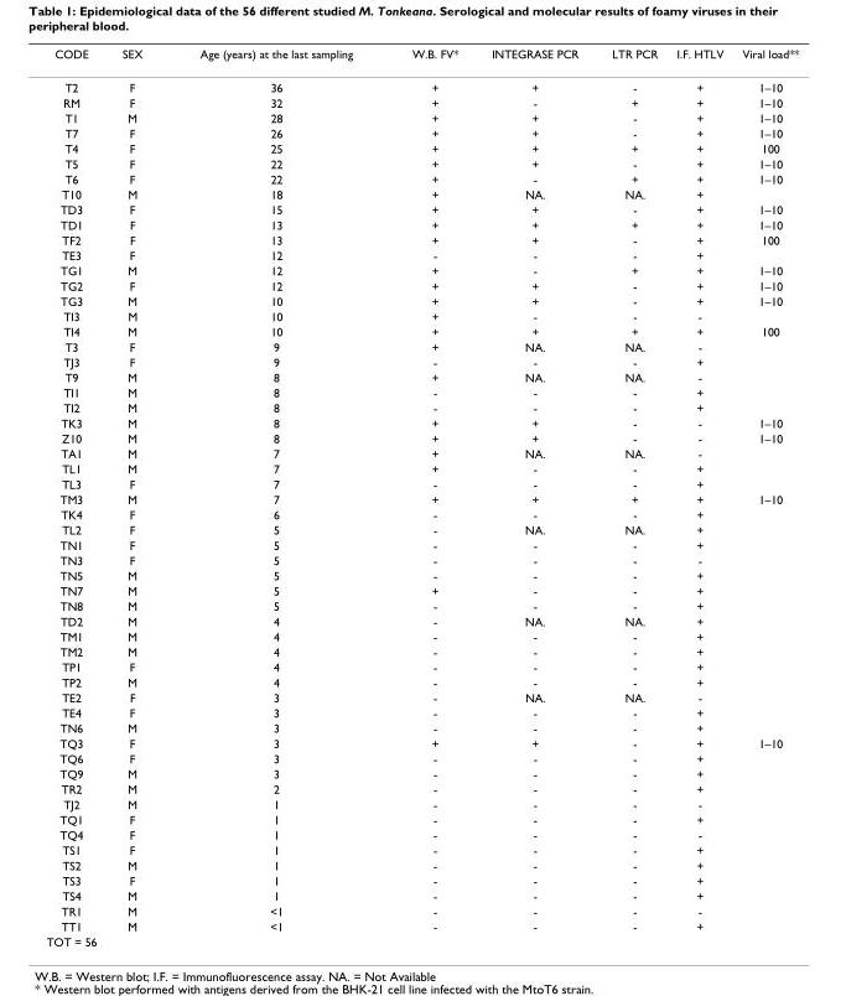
<table><thead><tr><td>CODE</td><td>SEX</td><td>Age (years) at the last sampling</td><td>W.B. FV*</td><td>INTEGRASE PCR</td><td>LTR PCR</td><td>I.F. HTLV</td><td>Viral load**</td></tr></thead><tbody><tr><td>T2</td><td>F</td><td>36</td><td>+</td><td>+</td><td>-</td><td>+</td><td>1–10</td></tr><tr><td>RM</td><td>F</td><td>32</td><td>+</td><td>-</td><td>+</td><td>+</td><td>1–10</td></tr><tr><td>T1</td><td>M</td><td>28</td><td>+</td><td>+</td><td>-</td><td>+</td><td>1–10</td></tr><tr><td>T7</td><td>F</td><td>26</td><td>+</td><td>+</td><td>-</td><td>+</td><td>1–10</td></tr><tr><td>T4</td><td>F</td><td>25</td><td>+</td><td>+</td><td>+</td><td>+</td><td>100</td></tr><tr><td>T5</td><td>F</td><td>22</td><td>+</td><td>+</td><td>-</td><td>+</td><td>1–10</td></tr><tr><td>T6</td><td>F</td><td>22</td><td>+</td><td>-</td><td>+</td><td>+</td><td>1–10</td></tr><tr><td>T10</td><td>M</td><td>18</td><td>+</td><td>NA.</td><td>NA.</td><td>+</td><td></td></tr><tr><td>TD3</td><td>F</td><td>15</td><td>+</td><td>+</td><td>-</td><td>+</td><td>1–10</td></tr><tr><td>TD1</td><td>F</td><td>13</td><td>+</td><td>+</td><td>+</td><td>+</td><td>1–10</td></tr><tr><td>TF2</td><td>F</td><td>13</td><td>+</td><td>+</td><td>-</td><td>+</td><td>100</td></tr><tr><td>TE3</td><td>F</td><td>12</td><td>-</td><td>-</td><td>-</td><td>+</td><td></td></tr><tr><td>TG1</td><td>M</td><td>12</td><td>+</td><td>-</td><td>+</td><td>+</td><td>1–10</td></tr><tr><td>TG2</td><td>F</td><td>12</td><td>+</td><td>+</td><td>-</td><td>+</td><td>1–10</td></tr><tr><td>TG3</td><td>M</td><td>10</td><td>+</td><td>+</td><td>-</td><td>+</td><td>1–10</td></tr><tr><td>TI3</td><td>M</td><td>10</td><td>+</td><td>-</td><td>-</td><td>-</td><td></td></tr><tr><td>TI4</td><td>M</td><td>10</td><td>+</td><td>+</td><td>+</td><td>+</td><td>100</td></tr><tr><td>T3</td><td>F</td><td>9</td><td>+</td><td>NA.</td><td>NA.</td><td>-</td><td></td></tr><tr><td>TJ3</td><td>F</td><td>9</td><td>-</td><td>-</td><td>-</td><td>+</td><td></td></tr><tr><td>T9</td><td>M</td><td>8</td><td>+</td><td>NA.</td><td>NA.</td><td>-</td><td></td></tr><tr><td>TI1</td><td>M</td><td>8</td><td>-</td><td>-</td><td>-</td><td>+</td><td></td></tr><tr><td>TI2</td><td>M</td><td>8</td><td>-</td><td>-</td><td>-</td><td>+</td><td></td></tr><tr><td>TK3</td><td>M</td><td>8</td><td>+</td><td>+</td><td>-</td><td>-</td><td>1–10</td></tr><tr><td>Z10</td><td>M</td><td>8</td><td>+</td><td>+</td><td>-</td><td>-</td><td>1–10</td></tr><tr><td>TA1</td><td>M</td><td>7</td><td>+</td><td>NA.</td><td>NA.</td><td>-</td><td></td></tr><tr><td>TL1</td><td>M</td><td>7</td><td>+</td><td>-</td><td>-</td><td>+</td><td></td></tr><tr><td>TL3</td><td>F</td><td>7</td><td>-</td><td>-</td><td>-</td><td>+</td><td></td></tr><tr><td>TM3</td><td>M</td><td>7</td><td>+</td><td>+</td><td>+</td><td>+</td><td>1–10</td></tr><tr><td>TK4</td><td>F</td><td>6</td><td>-</td><td>-</td><td>-</td><td>+</td><td></td></tr><tr><td>TL2</td><td>F</td><td>5</td><td>-</td><td>NA.</td><td>NA.</td><td>+</td><td></td></tr><tr><td>TN1</td><td>F</td><td>5</td><td>-</td><td>-</td><td>-</td><td>+</td><td></td></tr><tr><td>TN3</td><td>F</td><td>5</td><td>-</td><td>-</td><td>-</td><td>-</td><td></td></tr><tr><td>TN5</td><td>M</td><td>5</td><td>-</td><td>-</td><td>-</td><td>+</td><td></td></tr><tr><td>TN7</td><td>M</td><td>5</td><td>+</td><td>-</td><td>-</td><td>+</td><td></td></tr><tr><td>TN8</td><td>M</td><td>5</td><td>-</td><td>-</td><td>-</td><td>+</td><td></td></tr><tr><td>TD2</td><td>M</td><td>4</td><td>-</td><td>NA.</td><td>NA.</td><td>+</td><td></td></tr><tr><td>TM1</td><td>M</td><td>4</td><td>-</td><td>-</td><td>-</td><td>+</td><td></td></tr><tr><td>TM2</td><td>M</td><td>4</td><td>-</td><td>-</td><td>-</td><td>+</td><td></td></tr><tr><td>TP1</td><td>F</td><td>4</td><td>-</td><td>-</td><td>-</td><td>+</td><td></td></tr><tr><td>TP2</td><td>M</td><td>4</td><td>-</td><td>-</td><td>-</td><td>+</td><td></td></tr><tr><td>TE2</td><td>F</td><td>3</td><td>-</td><td>NA.</td><td>NA.</td><td>-</td><td></td></tr><tr><td>TE4</td><td>F</td><td>3</td><td>-</td><td>-</td><td>-</td><td>+</td><td></td></tr><tr><td>TN6</td><td>M</td><td>3</td><td>-</td><td>-</td><td>-</td><td>+</td><td></td></tr><tr><td>TQ3</td><td>F</td><td>3</td><td>+</td><td>+</td><td>-</td><td>+</td><td>1–10</td></tr><tr><td>TQ6</td><td>F</td><td>3</td><td>-</td><td>-</td><td>-</td><td>+</td><td></td></tr><tr><td>TQ9</td><td>M</td><td>3</td><td>-</td><td>-</td><td>-</td><td>+</td><td></td></tr><tr><td>TR2</td><td>M</td><td>2</td><td>-</td><td>-</td><td>-</td><td>+</td><td></td></tr><tr><td>TJ2</td><td>M</td><td>1</td><td>-</td><td>-</td><td>-</td><td>-</td><td></td></tr><tr><td>TQ1</td><td>F</td><td>1</td><td>-</td><td>-</td><td>-</td><td>+</td><td></td></tr><tr><td>TQ4</td><td>F</td><td>1</td><td>-</td><td>-</td><td>-</td><td>-</td><td></td></tr><tr><td>TS1</td><td>F</td><td>1</td><td>-</td><td>-</td><td>-</td><td>+</td><td></td></tr><tr><td>TS2</td><td>M</td><td>1</td><td>-</td><td>-</td><td>-</td><td>+</td><td></td></tr><tr><td>TS3</td><td>F</td><td>1</td><td>-</td><td>-</td><td>-</td><td>+</td><td></td></tr><tr><td>TS4</td><td>M</td><td>1</td><td>-</td><td>-</td><td>-</td><td>+</td><td></td></tr><tr><td>TR1</td><td>M</td><td>&lt;1</td><td>-</td><td>-</td><td>-</td><td>-</td><td></td></tr><tr><td>TT1</td><td>M</td><td>&lt;1</td><td>-</td><td>-</td><td>-</td><td>+</td><td></td></tr><tr><td>TOT = 56</td><td></td><td></td><td></td><td></td><td></td><td></td><td></td></tr></tbody></table>